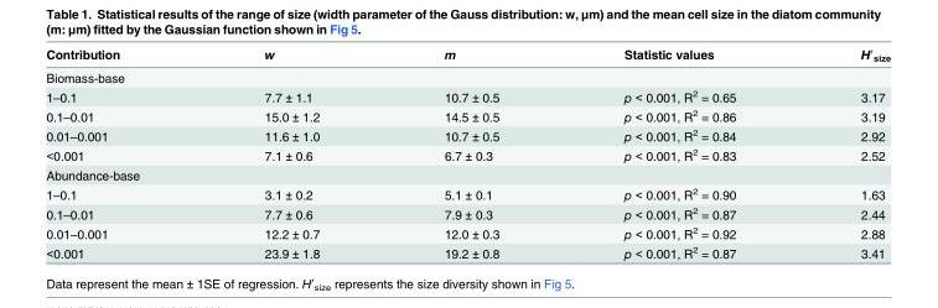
<table><thead><tr><td>Contribution</td><td>w</td><td>m</td><td>Statistic values</td><td>H′<sub>size</sub></td></tr></thead><tbody><tr><td colspan="5">Biomass-base</td></tr><tr><td>1–0.1</td><td>7.7 ± 1.1</td><td>10.7 ± 0.5</td><td>p &lt; 0.001, R<sup>2</sup> = 0.65</td><td>3.17</td></tr><tr><td>0.1–0.01</td><td>15.0 ± 1.2</td><td>14.5 ± 0.5</td><td>p &lt; 0.001, R<sup>2</sup> = 0.86</td><td>3.19</td></tr><tr><td>0.01–0.001</td><td>11.6 ± 1.0</td><td>10.7 ± 0.5</td><td>p &lt; 0.001, R<sup>2</sup> = 0.84</td><td>2.92</td></tr><tr><td>&lt;0.001</td><td>7.1 ± 0.6</td><td>6.7 ± 0.3</td><td>p &lt; 0.001, R<sup>2</sup> = 0.83</td><td>2.52</td></tr><tr><td colspan="5">Abundance-base</td></tr><tr><td>1–0.1</td><td>3.1 ± 0.2</td><td>5.1 ± 0.1</td><td>p &lt; 0.001, R<sup>2</sup> = 0.90</td><td>1.63</td></tr><tr><td>0.1–0.01</td><td>7.7 ± 0.6</td><td>7.9 ± 0.3</td><td>p &lt; 0.001, R<sup>2</sup> = 0.87</td><td>2.44</td></tr><tr><td>0.01–0.001</td><td>12.2 ± 0.7</td><td>12.0 ± 0.3</td><td>p &lt; 0.001, R<sup>2</sup> = 0.92</td><td>2.88</td></tr><tr><td>&lt;0.001</td><td>23.9 ± 1.8</td><td>19.2 ± 0.8</td><td>p &lt; 0.001, R<sup>2</sup> = 0.87</td><td>3.41</td></tr></tbody></table>